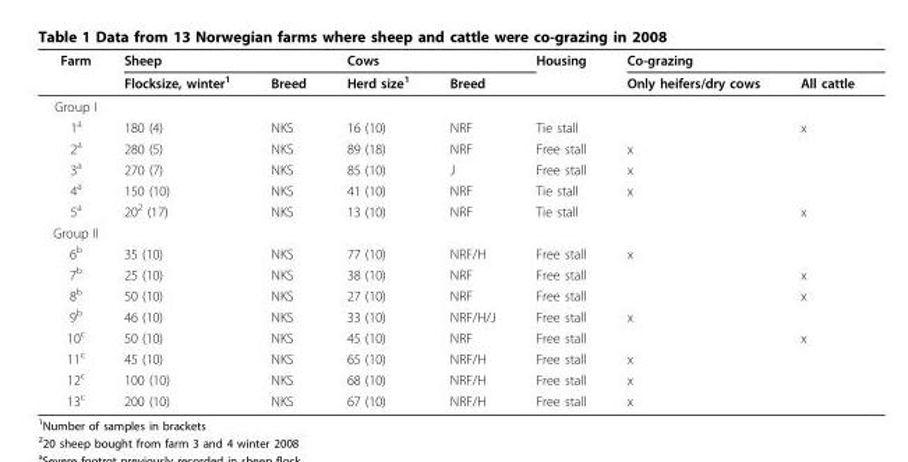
<table><thead><tr><td rowspan="2">Farm</td><td colspan="2">Sheep</td><td colspan="2">Cows</td><td rowspan="2">Housing</td><td colspan="2">Co-grazing</td></tr><tr><td>Flocksize, winter<sup>1</sup></td><td>Breed</td><td>Herd size<sup>1</sup></td><td>Breed</td><td>Only heifers/dry cows</td><td>All cattle</td></tr></thead><tbody><tr><td colspan="8">Group I</td></tr><tr><td>1<sup>a</sup></td><td>180 (4)</td><td>NKS</td><td>16 (10)</td><td>NRF</td><td>Tie stall</td><td></td><td>x</td></tr><tr><td>2<sup>a</sup></td><td>280 (5)</td><td>NKS</td><td>89 (18)</td><td>NRF</td><td>Free stall</td><td>x</td><td></td></tr><tr><td>3<sup>a</sup></td><td>270 (7)</td><td>NKS</td><td>85 (10)</td><td>J</td><td>Free stall</td><td>x</td><td></td></tr><tr><td>4<sup>a</sup></td><td>150 (10)</td><td>NKS</td><td>41 (10)</td><td>NRF</td><td>Tie stall</td><td>x</td><td></td></tr><tr><td>5<sup>a</sup></td><td>20<sup>2</sup> (17)</td><td>NKS</td><td>13 (10)</td><td>NRF</td><td>Tie stall</td><td></td><td>x</td></tr><tr><td colspan="8">Group II</td></tr><tr><td>6<sup>b</sup></td><td>35 (10)</td><td>NKS</td><td>77 (10)</td><td>NRF/H</td><td>Free stall</td><td>x</td><td></td></tr><tr><td>7<sup>b</sup></td><td>25 (10)</td><td>NKS</td><td>38 (10)</td><td>NRF</td><td>Free stall</td><td></td><td>x</td></tr><tr><td>8<sup>b</sup></td><td>50 (10)</td><td>NKS</td><td>27 (10)</td><td>NRF</td><td>Free stall</td><td></td><td>x</td></tr><tr><td>9<sup>b</sup></td><td>46 (10)</td><td>NKS</td><td>33 (10)</td><td>NRF/H/J</td><td>Free stall</td><td>x</td><td></td></tr><tr><td>10<sup>c</sup></td><td>50 (10)</td><td>NKS</td><td>45 (10)</td><td>NRF</td><td>Free stall</td><td></td><td>x</td></tr><tr><td>11<sup>c</sup></td><td>45 (10)</td><td>NKS</td><td>65 (10)</td><td>NRF/H</td><td>Free stall</td><td>x</td><td></td></tr><tr><td>12<sup>c</sup></td><td>100 (10)</td><td>NKS</td><td>68 (10)</td><td>NRF/H</td><td>Free stall</td><td>x</td><td></td></tr><tr><td>13<sup>c</sup></td><td>200 (10)</td><td>NKS</td><td>67 (10)</td><td>NRF/H</td><td>Free stall</td><td>x</td><td></td></tr></tbody></table>